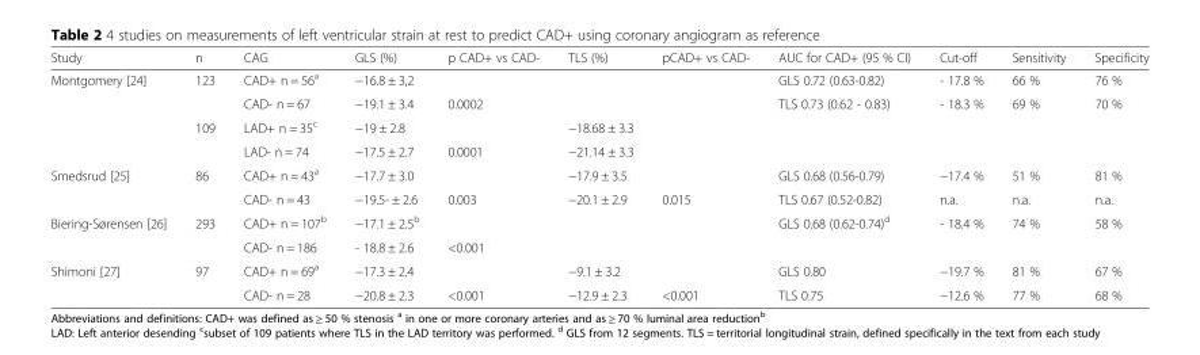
<table><thead><tr><td>Study</td><td>n</td><td>CAG</td><td>GLS (%)</td><td>p CAD+ vs CAD-</td><td>TLS (%)</td><td>pCAD+ vs CAD-</td><td>AUC for CAD+ (95 % CI)</td><td>Cut-off</td><td>Sensitivity</td><td>Specificity</td></tr></thead><tbody><tr><td rowspan="4">Montgomery [24]</td><td>123</td><td>CAD+ n = 56<sup>a</sup></td><td>−16.8 ± 3,2</td><td></td><td></td><td></td><td>GLS 0.72 (0.63-0.82)</td><td>- 17.8 %</td><td>66 %</td><td>76 %</td></tr><tr><td></td><td>CAD- n = 67</td><td>−19.1 ± 3.4</td><td>0.0002</td><td></td><td></td><td>TLS 0.73 (0.62 - 0.83)</td><td>- 18.3 %</td><td>69 %</td><td>70 %</td></tr><tr><td>109</td><td>LAD+ n = 35<sup>c</sup></td><td>−19 ± 2.8</td><td></td><td>−18.68 ± 3.3</td><td></td><td></td><td></td><td></td><td></td></tr><tr><td></td><td>LAD- n = 74</td><td>−17.5 ± 2.7</td><td>0.0001</td><td>−21.14 ± 3.3</td><td></td><td></td><td></td><td></td><td></td></tr><tr><td rowspan="2">Smedsrud [25]</td><td>86</td><td>CAD+ n = 43<sup>a</sup></td><td>−17.7 ± 3.0</td><td></td><td>−17.9 ± 3.5</td><td></td><td>GLS 0.68 (0.56-0.79)</td><td>−17.4 %</td><td>51 %</td><td>81 %</td></tr><tr><td></td><td>CAD- n = 43</td><td>−19.5- ± 2.6</td><td>0.003</td><td>−20.1 ± 2.9</td><td>0.015</td><td>TLS 0.67 (0.52-0.82)</td><td>n.a.</td><td>n.a.</td><td>n.a.</td></tr><tr><td rowspan="2">Biering-Sørensen [26]</td><td>293</td><td>CAD+ n = 107<sup>b</sup></td><td>−17.1 ± 2.5<sup>b</sup></td><td></td><td></td><td></td><td>GLS 0.68 (0.62-0.74)<sup>d</sup></td><td>- 18.4 %</td><td>74 %</td><td>58 %</td></tr><tr><td></td><td>CAD- n = 186</td><td>- 18.8 ± 2.6</td><td>&lt;0.001</td><td></td><td></td><td></td><td></td><td></td><td></td></tr><tr><td rowspan="2">Shimoni [27]</td><td>97</td><td>CAD+ n = 69<sup>a</sup></td><td>−17.3 ± 2.4</td><td></td><td>−9.1 ± 3.2</td><td></td><td>GLS 0.80</td><td>−19.7 %</td><td>81 %</td><td>67 %</td></tr><tr><td></td><td>CAD- n = 28</td><td>−20.8 ± 2.3</td><td>&lt;0.001</td><td>−12.9 ± 2.3</td><td>&lt;0.001</td><td>TLS 0.75</td><td>−12.6 %</td><td>77 %</td><td>68 %</td></tr></tbody></table>